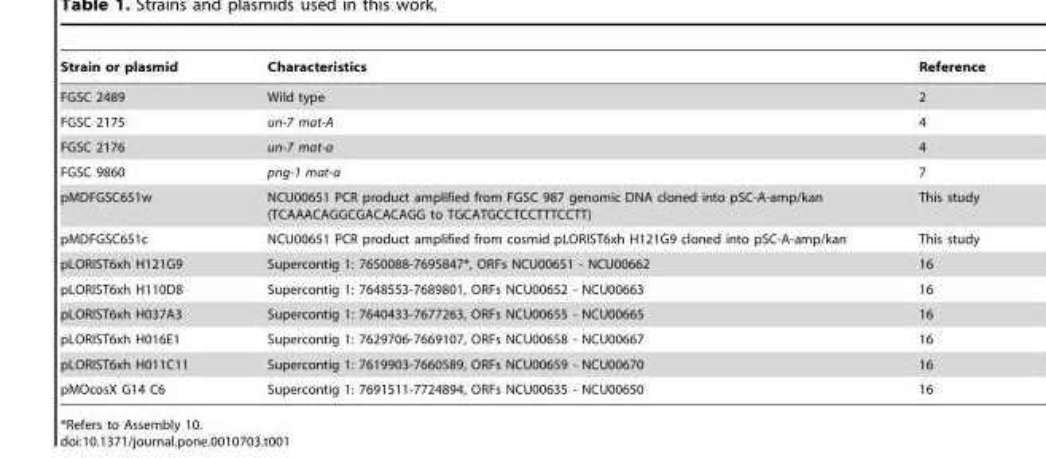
<table><thead><tr><td>Strain or plasmid</td><td>Characteristics</td><td>Reference</td></tr></thead><tbody><tr><td>FGSC 2489</td><td>Wild type</td><td>2</td></tr><tr><td>FGSC 2175</td><td>un-7 mat-A</td><td>4</td></tr><tr><td>FGSC 2176</td><td>un-7 mat-a</td><td>4</td></tr><tr><td>FGSC 9860</td><td>png-1 mat-a</td><td>7</td></tr><tr><td>pMDFGSC651w</td><td>NCU00651 PCR product amplified from FGSC 987 genomic DNA cloned into pSC-A-amp/kan (TCAAACAGGCGACACAGG to TGCATGCCTCCTTTCCTT)</td><td>This study</td></tr><tr><td>pMDFGSC651c</td><td>NCU00651 PCR product amplified from cosmid pLORIST6xh H121G9 cloned into pSC-A-amp/kan</td><td>This study</td></tr><tr><td>pLORIST6xh H121G9</td><td>Supercontig 1: 7650088-7695847*, ORFs NCU00651 - NCU00662</td><td>16</td></tr><tr><td>pLORIST6xh H110D8</td><td>Supercontig 1: 7648553-7689801, ORFs NCU00652 - NCU00663</td><td>16</td></tr><tr><td>pLORIST6xh H037A3</td><td>Supercontig 1: 7640433-7677263, ORFs NCU00655 - NCU00665</td><td>16</td></tr><tr><td>pLORIST6xh H016E1</td><td>Supercontig 1: 7629706-7669107, ORFs NCU00658 - NCU00667</td><td>16</td></tr><tr><td>pLORIST6xh H011C11</td><td>Supercontig 1: 7619903-7660589, ORFs NCU00659 - NCU00670</td><td>16</td></tr><tr><td>pMOcosX G14 C6</td><td>Supercontig 1: 7691511-7724894, ORFs NCU00635 - NCU00650</td><td>16</td></tr></tbody></table>